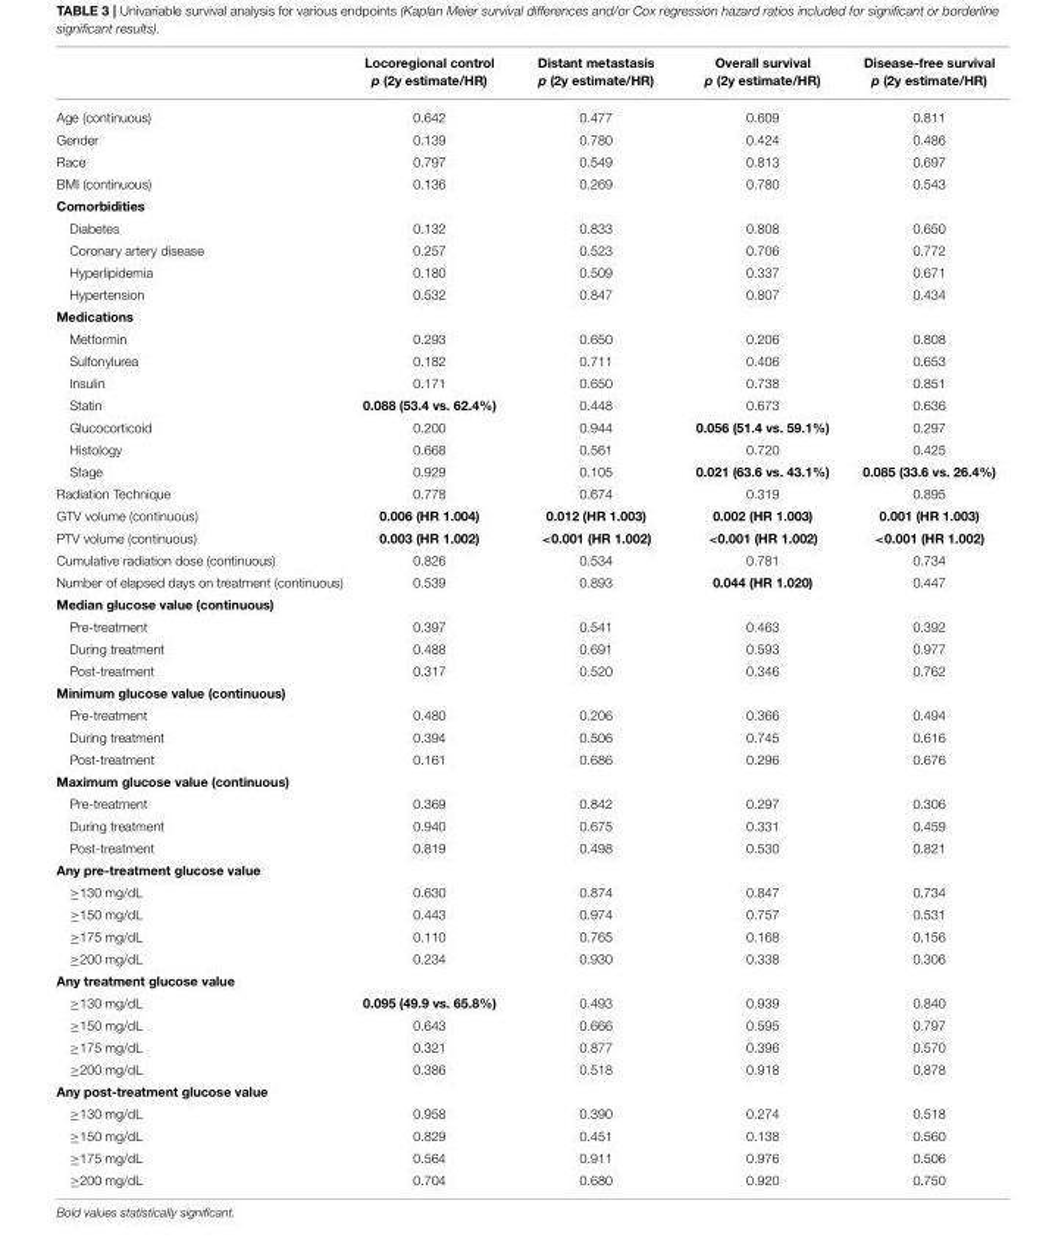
<table><thead><tr><td></td><td>Locoregional control p (2y estimate/HR)</td><td>Distant metastasis p (2y estimate/HR)</td><td>Overall survival p (2y estimate/HR)</td><td>Disease-free survival p (2y estimate/HR)</td></tr></thead><tbody><tr><td>Age (continuous)</td><td>0.642</td><td>0.477</td><td>0.609</td><td>0.811</td></tr><tr><td>Gender</td><td>0.139</td><td>0.780</td><td>0.424</td><td>0.486</td></tr><tr><td>Race</td><td>0.797</td><td>0.549</td><td>0.813</td><td>0.697</td></tr><tr><td>BMI (continuous)</td><td>0.136</td><td>0.269</td><td>0.780</td><td>0.543</td></tr><tr><td colspan="5">Comorbidities</td></tr><tr><td>Diabetes</td><td>0.132</td><td>0.833</td><td>0.808</td><td>0.650</td></tr><tr><td>Coronary artery disease</td><td>0.257</td><td>0.523</td><td>0.706</td><td>0.772</td></tr><tr><td>Hyperlipidemia</td><td>0.180</td><td>0.509</td><td>0.337</td><td>0.671</td></tr><tr><td>Hypertension</td><td>0.532</td><td>0.847</td><td>0.807</td><td>0.434</td></tr><tr><td colspan="5">Medications</td></tr><tr><td>Metformin</td><td>0.293</td><td>0.650</td><td>0.206</td><td>0.808</td></tr><tr><td>Sulfonylurea</td><td>0.182</td><td>0.711</td><td>0.406</td><td>0.653</td></tr><tr><td>Insulin</td><td>0.171</td><td>0.650</td><td>0.738</td><td>0.851</td></tr><tr><td>Statin</td><td>0.088 (53.4 vs. 62.4%)</td><td>0.448</td><td>0.673</td><td>0.636</td></tr><tr><td>Glucocorticoid</td><td>0.200</td><td>0.944</td><td>0.056 (51.4 vs. 59.1%)</td><td>0.297</td></tr><tr><td>Histology</td><td>0.668</td><td>0.561</td><td>0.720</td><td>0.425</td></tr><tr><td>Stage</td><td>0.929</td><td>0.105</td><td>0.021 (63.6 vs. 43.1%)</td><td>0.085 (33.6 vs. 26.4%)</td></tr><tr><td>Radiation Technique</td><td>0.778</td><td>0.674</td><td>0.319</td><td>0.895</td></tr><tr><td>GTV volume (continuous)</td><td>0.006 (HR 1.004)</td><td>0.012 (HR 1.003)</td><td>0.002 (HR 1.003)</td><td>0.001 (HR 1.003)</td></tr><tr><td>PTV volume (continuous)</td><td>0.003 (HR 1.002)</td><td>&lt;0.001 (HR 1.002)</td><td>&lt;0.001 (HR 1.002)</td><td>&lt;0.001 (HR 1.002)</td></tr><tr><td>Cumulative radiation dose (continuous)</td><td>0.826</td><td>0.534</td><td>0.781</td><td>0.734</td></tr><tr><td>Number of elapsed days on treatment (continuous)</td><td>0.539</td><td>0.893</td><td>0.044 (HR 1.020)</td><td>0.447</td></tr><tr><td colspan="5">Median glucose value (continuous)</td></tr><tr><td>Pre-treatment</td><td>0.397</td><td>0.541</td><td>0.463</td><td>0.392</td></tr><tr><td>During treatment</td><td>0.488</td><td>0.691</td><td>0.593</td><td>0.977</td></tr><tr><td>Post-treatment</td><td>0.317</td><td>0.520</td><td>0.346</td><td>0.762</td></tr><tr><td colspan="5">Minimum glucose value (continuous)</td></tr><tr><td>Pre-treatment</td><td>0.480</td><td>0.206</td><td>0.366</td><td>0.494</td></tr><tr><td>During treatment</td><td>0.394</td><td>0.506</td><td>0.745</td><td>0.616</td></tr><tr><td>Post-treatment</td><td>0.161</td><td>0.686</td><td>0.296</td><td>0.676</td></tr><tr><td colspan="5">Maximum glucose value (continuous)</td></tr><tr><td>Pre-treatment</td><td>0.369</td><td>0.842</td><td>0.297</td><td>0.306</td></tr><tr><td>During treatment</td><td>0.940</td><td>0.675</td><td>0.331</td><td>0.459</td></tr><tr><td>Post-treatment</td><td>0.819</td><td>0.498</td><td>0.530</td><td>0.821</td></tr><tr><td colspan="5">Any pre-treatment glucose value</td></tr><tr><td>≥130 mg/dL</td><td>0.630</td><td>0.874</td><td>0.847</td><td>0.734</td></tr><tr><td>≥150 mg/dL</td><td>0.443</td><td>0.974</td><td>0.757</td><td>0.531</td></tr><tr><td>≥175 mg/dL</td><td>0.110</td><td>0.765</td><td>0.168</td><td>0.156</td></tr><tr><td>≥200 mg/dL</td><td>0.234</td><td>0.930</td><td>0.338</td><td>0.306</td></tr><tr><td colspan="5">Any treatment glucose value</td></tr><tr><td>≥130 mg/dL</td><td>0.095 (49.9 vs. 65.8%)</td><td>0.493</td><td>0.939</td><td>0.840</td></tr><tr><td>≥150 mg/dL</td><td>0.643</td><td>0.666</td><td>0.595</td><td>0.797</td></tr><tr><td>≥175 mg/dL</td><td>0.321</td><td>0.877</td><td>0.396</td><td>0.570</td></tr><tr><td>≥200 mg/dL</td><td>0.386</td><td>0.518</td><td>0.918</td><td>0.878</td></tr><tr><td colspan="5">Any post-treatment glucose value</td></tr><tr><td>≥130 mg/dL</td><td>0.958</td><td>0.390</td><td>0.274</td><td>0.518</td></tr><tr><td>≥150 mg/dL</td><td>0.829</td><td>0.451</td><td>0.138</td><td>0.560</td></tr><tr><td>≥175 mg/dL</td><td>0.564</td><td>0.911</td><td>0.976</td><td>0.506</td></tr><tr><td>≥200 mg/dL</td><td>0.704</td><td>0.680</td><td>0.920</td><td>0.750</td></tr></tbody></table>